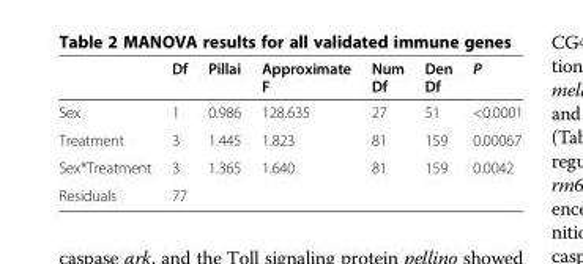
<table><thead><tr><td></td><td>Df</td><td>Pillai</td><td>Approximate F</td><td>Num Df</td><td>Den Df</td><td>P</td></tr></thead><tbody><tr><td>Sex</td><td>1</td><td>0.986</td><td>128.635</td><td>27</td><td>51</td><td>&lt;0.0001</td></tr><tr><td>Treatment</td><td>3</td><td>1.445</td><td>1.823</td><td>81</td><td>159</td><td>0.00067</td></tr><tr><td>Sex*Treatment</td><td>3</td><td>1.365</td><td>1.640</td><td>81</td><td>159</td><td>0.0042</td></tr><tr><td>Residuals</td><td>77</td><td></td><td></td><td></td><td></td><td></td></tr></tbody></table>